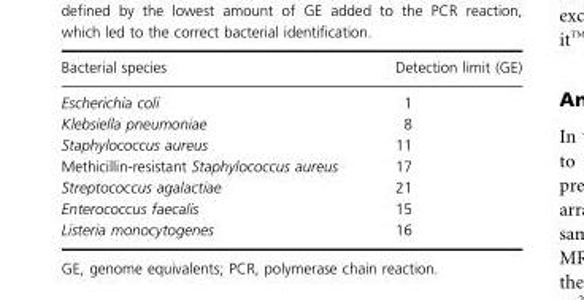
<table><thead><tr><td>Bacterial species</td><td>Detection limit (GE)</td></tr></thead><tbody><tr><td>Escherichia coli</td><td>1</td></tr><tr><td>Klebsiella pneumoniae</td><td>8</td></tr><tr><td>Staphylococcus aureus</td><td>11</td></tr><tr><td>Methicillin-resistant Staphylococcus aureus</td><td>17</td></tr><tr><td>Streptococcus agalactiae</td><td>21</td></tr><tr><td>Enterococcus faecalis</td><td>15</td></tr><tr><td>Listeria monocytogenes</td><td>16</td></tr></tbody></table>